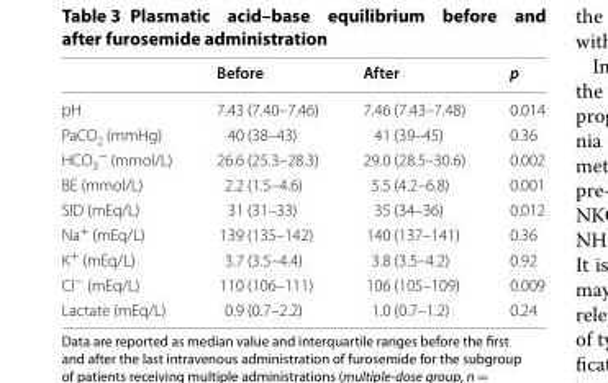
<table><thead><tr><td></td><td>Before</td><td>After</td><td>p</td></tr></thead><tbody><tr><td>pH</td><td>7.43 (7.40–7.46)</td><td>7.46 (7.43–7.48)</td><td>0.014</td></tr><tr><td>PaCO<sub>2</sub> (mmHg)</td><td>40 (38–43)</td><td>41 (39–45)</td><td>0.36</td></tr><tr><td>HCO<sub>3</sub> <sup>−</sup> (mmol/L)</td><td>26.6 (25.3–28.3)</td><td>29.0 (28.5–30.6)</td><td>0.002</td></tr><tr><td>BE (mmol/L)</td><td>2.2 (1.5–4.6)</td><td>5.5 (4.2–6.8)</td><td>0.001</td></tr><tr><td>SID (mEq/L)</td><td>31 (31–33)</td><td>35 (34–36)</td><td>0.012</td></tr><tr><td>Na<sup>+</sup> (mEq/L)</td><td>139 (135–142)</td><td>140 (137–141)</td><td>0.36</td></tr><tr><td>K<sup>+</sup> (mEq/L)</td><td>3.7 (3.5–4.4)</td><td>3.8 (3.5–4.2)</td><td>0.92</td></tr><tr><td>Cl<sup>−</sup> (mEq/L)</td><td>110 (106–111)</td><td>106 (105–109)</td><td>0.009</td></tr><tr><td>Lactate (mEq/L)</td><td>0.9 (0.7–2.2)</td><td>1.0 (0.7–1.2)</td><td>0.24</td></tr></tbody></table>